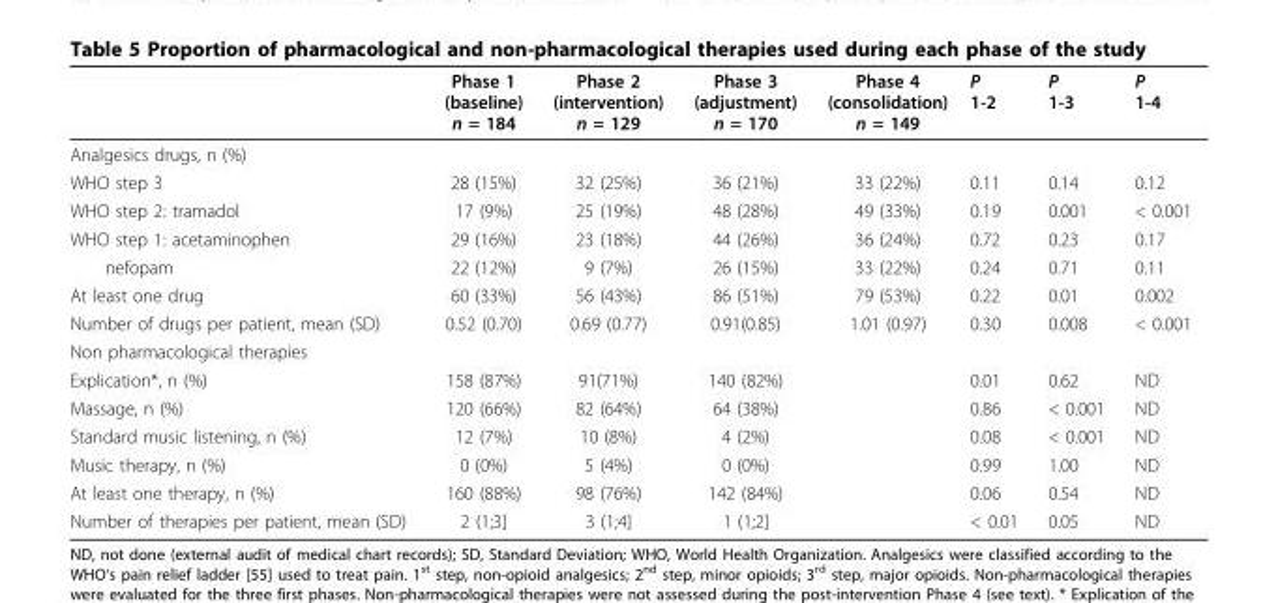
<table><thead><tr><td></td><td>Phase 1 (baseline) n = 184</td><td>Phase 2 (intervention) n = 129</td><td>Phase 3 (adjustment) n = 170</td><td>Phase 4 (consolidation) n = 149</td><td>P 1-2</td><td>P 1-3</td><td>P 1-4</td></tr></thead><tbody><tr><td colspan="8">Analgesics drugs, n (%)</td></tr><tr><td>WHO step 3</td><td>28 (15%)</td><td>32 (25%)</td><td>36 (21%)</td><td>33 (22%)</td><td>0.11</td><td>0.14</td><td>0.12</td></tr><tr><td>WHO step 2: tramadol</td><td>17 (9%)</td><td>25 (19%)</td><td>48 (28%)</td><td>49 (33%)</td><td>0.19</td><td>0.001</td><td>&lt; 0.001</td></tr><tr><td>WHO step 1: acetaminophen</td><td>29 (16%)</td><td>23 (18%)</td><td>44 (26%)</td><td>36 (24%)</td><td>0.72</td><td>0.23</td><td>0.17</td></tr><tr><td>nefopam</td><td>22 (12%)</td><td>9 (7%)</td><td>26 (15%)</td><td>33 (22%)</td><td>0.24</td><td>0.71</td><td>0.11</td></tr><tr><td>At least one drug</td><td>60 (33%)</td><td>56 (43%)</td><td>86 (51%)</td><td>79 (53%)</td><td>0.22</td><td>0.01</td><td>0.002</td></tr><tr><td>Number of drugs per patient, mean (SD)</td><td>0.52 (0.70)</td><td>0.69 (0.77)</td><td>0.91(0.85)</td><td>1.01 (0.97)</td><td>0.30</td><td>0.008</td><td>&lt; 0.001</td></tr><tr><td colspan="8">Non pharmacological therapies</td></tr><tr><td>Explication*, n (%)</td><td>158 (87%)</td><td>91(71%)</td><td>140 (82%)</td><td></td><td>0.01</td><td>0.62</td><td>ND</td></tr><tr><td>Massage, n (%)</td><td>120 (66%)</td><td>82 (64%)</td><td>64 (38%)</td><td></td><td>0.86</td><td>&lt; 0.001</td><td>ND</td></tr><tr><td>Standard music listening, n (%)</td><td>12 (7%)</td><td>10 (8%)</td><td>4 (2%)</td><td></td><td>0.08</td><td>&lt; 0.001</td><td>ND</td></tr><tr><td>Music therapy, n (%)</td><td>0 (0%)</td><td>5 (4%)</td><td>0 (0%)</td><td></td><td>0.99</td><td>1.00</td><td>ND</td></tr><tr><td>At least one therapy, n (%)</td><td>160 (88%)</td><td>98 (76%)</td><td>142 (84%)</td><td></td><td>0.06</td><td>0.54</td><td>ND</td></tr><tr><td>Number of therapies per patient, mean (SD)</td><td>2 (1;3]</td><td>3 (1;4]</td><td>1 (1;2]</td><td></td><td>&lt; 0.01</td><td>0.05</td><td>ND</td></tr></tbody></table>